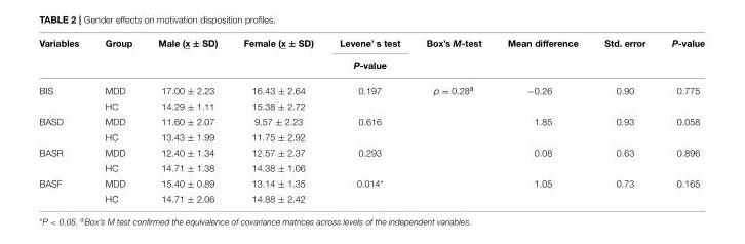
<table><thead><tr><td rowspan="2">Variables</td><td rowspan="2">Group</td><td rowspan="2">Male (x ± SD)</td><td rowspan="2">Female (x ± SD)</td><td rowspan="2">Levene’ s test P-value</td><td rowspan="2">Box’s M-test</td><td rowspan="2">Mean difference</td><td rowspan="2">Std. error</td><td rowspan="2">P-value</td></tr><tr></tr></thead><tbody><tr><td rowspan="2">BIS</td><td>MDD</td><td>17.00 ± 2.23</td><td>16.43 ± 2.64</td><td>0.197</td><td>p = 0.28<sup>a</sup></td><td>−0.26</td><td>0.90</td><td>0.775</td></tr><tr><td>HC</td><td>14.29 ± 1.11</td><td>15.38 ± 2.72</td><td></td><td></td><td></td><td></td><td></td></tr><tr><td rowspan="2">BASD</td><td>MDD</td><td>11.60 ± 2.07</td><td>9.57 ± 2.23</td><td>0.616</td><td></td><td>1.85</td><td>0.93</td><td>0.058</td></tr><tr><td>HC</td><td>13.43 ± 1.99</td><td>11.75 ± 2.92</td><td></td><td></td><td></td><td></td><td></td></tr><tr><td rowspan="2">BASR</td><td>MDD</td><td>12.40 ± 1.34</td><td>12.57 ± 2.37</td><td>0.293</td><td></td><td>0.08</td><td>0.63</td><td>0.896</td></tr><tr><td>HC</td><td>14.71 ± 1.38</td><td>14.38 ± 1.06</td><td></td><td></td><td></td><td></td><td></td></tr><tr><td rowspan="2">BASF</td><td>MDD</td><td>15.40 ± 0.89</td><td>13.14 ± 1.35</td><td>0.014*</td><td></td><td>1.05</td><td>0.73</td><td>0.165</td></tr><tr><td>HC</td><td>14.71 ± 2.06</td><td>14.88 ± 2.42</td><td></td><td></td><td></td><td></td><td></td></tr></tbody></table>